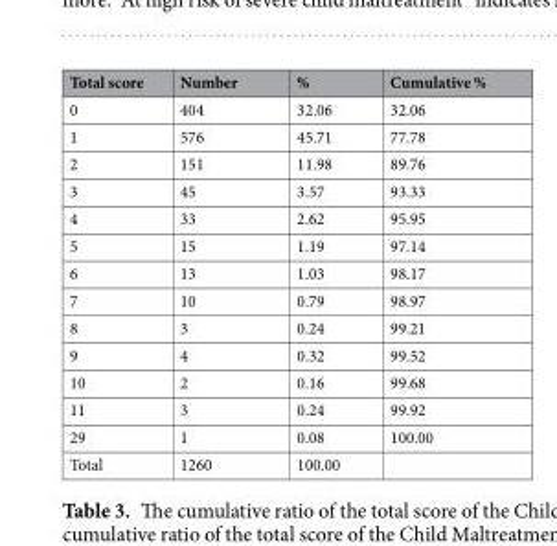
<table><thead><tr><td>Total score</td><td>Number</td><td>%</td><td>Cumulative %</td></tr></thead><tbody><tr><td>0</td><td>404</td><td>32.06</td><td>32.06</td></tr><tr><td>1</td><td>576</td><td>45.71</td><td>77.78</td></tr><tr><td>2</td><td>151</td><td>11.98</td><td>89.76</td></tr><tr><td>3</td><td>45</td><td>3.57</td><td>93.33</td></tr><tr><td>4</td><td>33</td><td>2.62</td><td>95.95</td></tr><tr><td>5</td><td>15</td><td>1.19</td><td>97.14</td></tr><tr><td>6</td><td>13</td><td>1.03</td><td>98.17</td></tr><tr><td>7</td><td>10</td><td>0.79</td><td>98.97</td></tr><tr><td>8</td><td>3</td><td>0.24</td><td>99.21</td></tr><tr><td>9</td><td>4</td><td>0.32</td><td>99.52</td></tr><tr><td>10</td><td>2</td><td>0.16</td><td>99.68</td></tr><tr><td>11</td><td>3</td><td>0.24</td><td>99.92</td></tr><tr><td>29</td><td>1</td><td>0.08</td><td>100.00</td></tr><tr><td>Total</td><td>1260</td><td>100.00</td><td></td></tr></tbody></table>